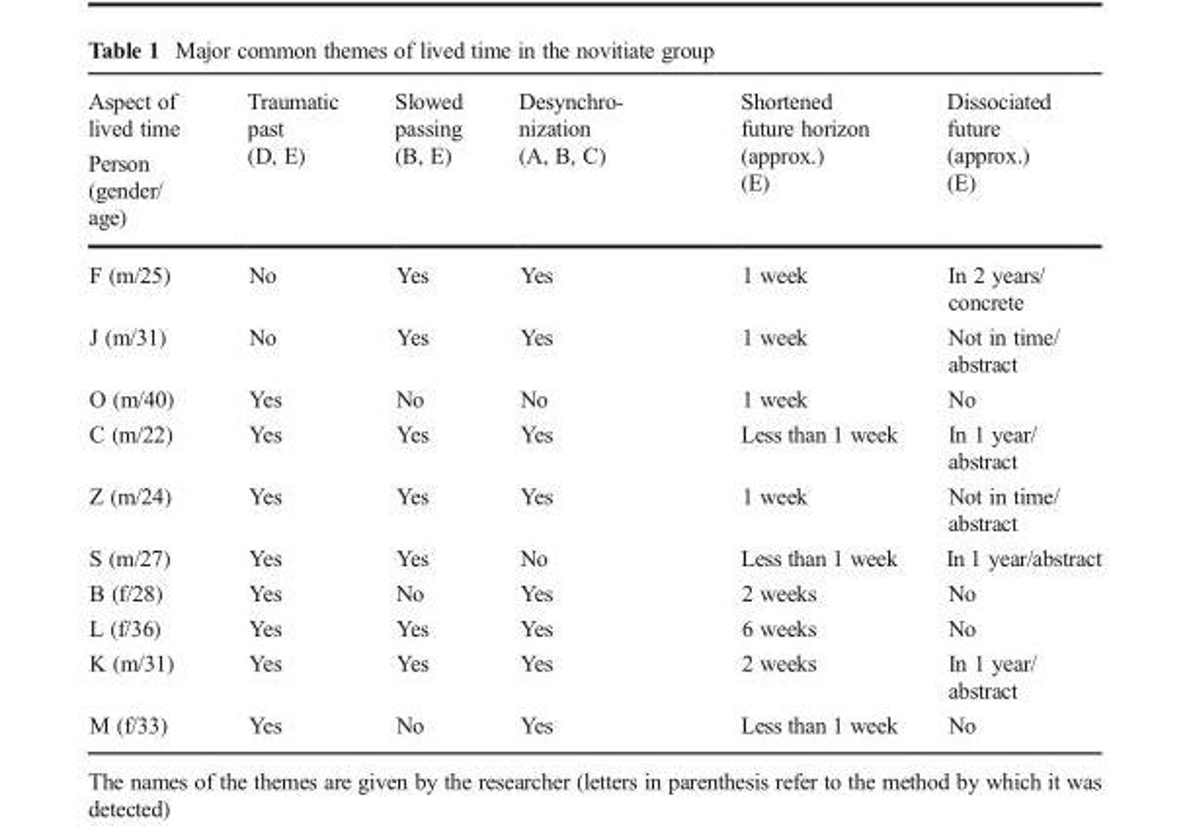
<table><thead><tr><td rowspan="2">Aspect of lived time Person (gender/ age)</td><td rowspan="2">Traumatic past (D, E)</td><td rowspan="2">Slowed passing (B, E)</td><td rowspan="2">Desynchro- nization (A, B, C)</td><td rowspan="2">Shortened future horizon (approx.) (E)</td><td rowspan="2">Dissociated future (approx.) (E)</td></tr><tr></tr></thead><tbody><tr><td>F (m/25)</td><td>No</td><td>Yes</td><td>Yes</td><td>1 week</td><td>In 2 years/ concrete</td></tr><tr><td>J (m/31)</td><td>No</td><td>Yes</td><td>Yes</td><td>1 week</td><td>Not in time/ abstract</td></tr><tr><td>O (m/40)</td><td>Yes</td><td>No</td><td>No</td><td>1 week</td><td>No</td></tr><tr><td>C (m/22)</td><td>Yes</td><td>Yes</td><td>Yes</td><td>Less than 1 week</td><td>In 1 year/ abstract</td></tr><tr><td>Z (m/24)</td><td>Yes</td><td>Yes</td><td>Yes</td><td>1 week</td><td>Not in time/ abstract</td></tr><tr><td>S (m/27)</td><td>Yes</td><td>Yes</td><td>No</td><td>Less than 1 week</td><td>In 1 year/abstract</td></tr><tr><td>B (f/28)</td><td>Yes</td><td>No</td><td>Yes</td><td>2 weeks</td><td>No</td></tr><tr><td>L (f/36)</td><td>Yes</td><td>Yes</td><td>Yes</td><td>6 weeks</td><td>No</td></tr><tr><td>K (m/31)</td><td>Yes</td><td>Yes</td><td>Yes</td><td>2 weeks</td><td>In 1 year/ abstract</td></tr><tr><td>M (f/33)</td><td>Yes</td><td>No</td><td>Yes</td><td>Less than 1 week</td><td>No</td></tr></tbody></table>